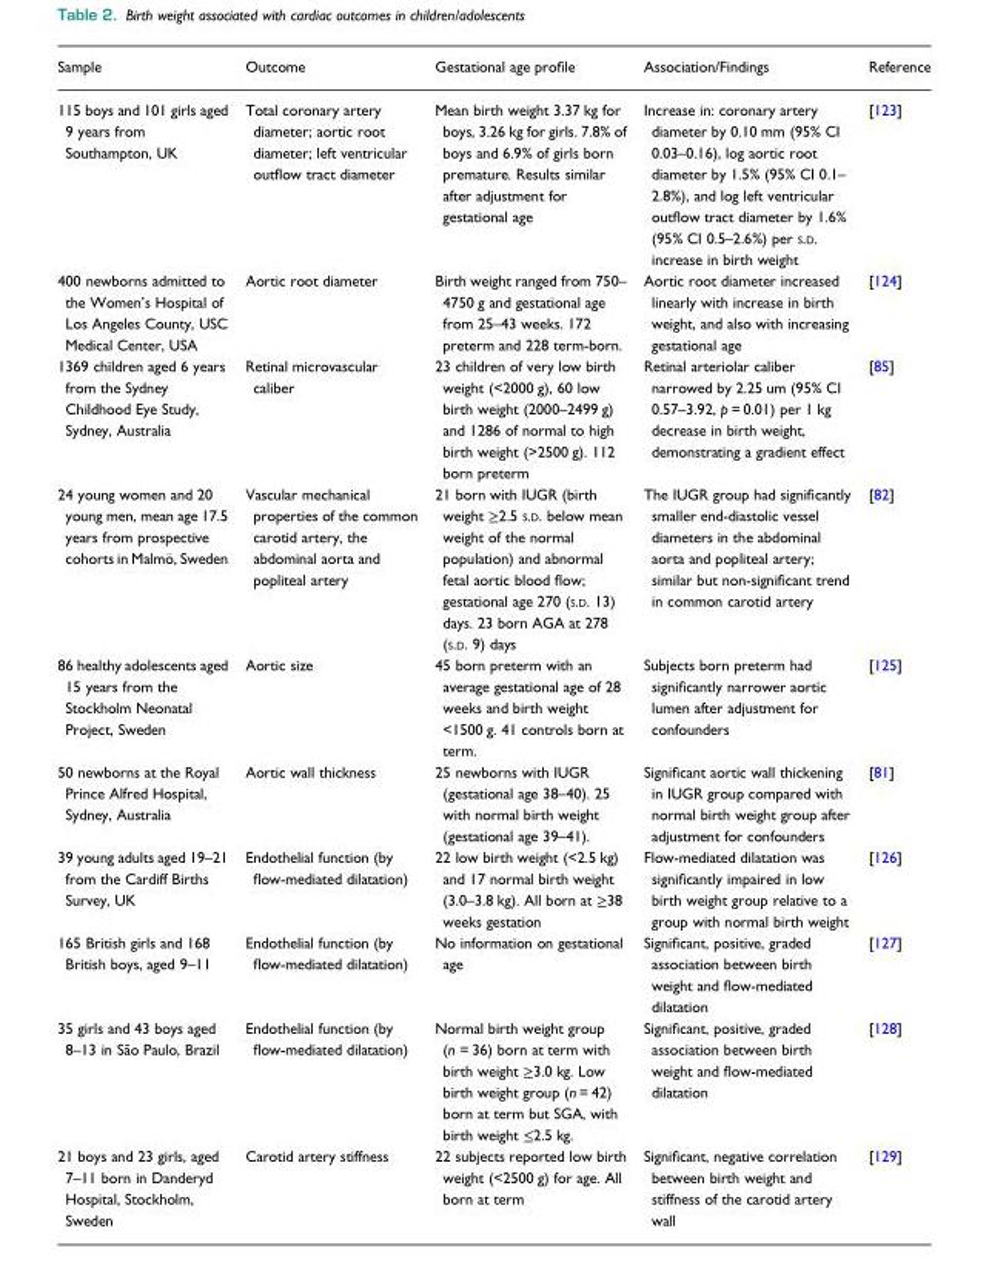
<table><thead><tr><td>Sample</td><td>Outcome</td><td>Gestational age profile</td><td>Association/Findings</td><td>Reference</td></tr></thead><tbody><tr><td>115 boys and 101 girls aged 9 years from Southampton, UK</td><td>Total coronary artery diameter; aortic root diameter; left ventricular outflow tract diameter</td><td>Mean birth weight 3.37 kg for boys, 3.26 kg for girls. 7.8% of boys and 6.9% of girls born premature. Results similar after adjustment for gestational age</td><td>Increase in: coronary artery diameter by 0.10 mm (95% CI 0.03–0.16), log aortic root diameter by 1.5% (95% CI 0.1– 2.8%), and log left ventricular outflow tract diameter by 1.6% (95% CI 0.5–2.6%) per S.D. increase in birth weight</td><td>[123]</td></tr><tr><td>400 newborns admitted to the Women’s Hospital of Los Angeles County, USC Medical Center, USA</td><td>Aortic root diameter</td><td>Birth weight ranged from 750– 4750 g and gestational age from 25–43 weeks. 172 preterm and 228 term-born.</td><td>Aortic root diameter increased linearly with increase in birth weight, and also with increasing gestational age</td><td>[124]</td></tr><tr><td>1369 children aged 6 years from the Sydney Childhood Eye Study, Sydney, Australia</td><td>Retinal microvascular caliber</td><td>23 children of very low birth weight (&lt;2000 g), 60 low birth weight (2000–2499 g) and 1286 of normal to high birth weight (&gt;2500 g). 112 born preterm</td><td>Retinal arteriolar caliber narrowed by 2.25 um (95% CI 0.57–3.92, p = 0.01) per 1 kg decrease in birth weight, demonstrating a gradient effect</td><td>[85]</td></tr><tr><td>24 young women and 20 young men, mean age 17.5 years from prospective cohorts in Malmö, Sweden</td><td>Vascular mechanical properties of the common carotid artery, the abdominal aorta and popliteal artery</td><td>21 born with IUGR (birth weight ≥2.5 S.D. below mean weight of the normal population) and abnormal fetal aortic blood flow; gestational age 270 (S.D. 13) days. 23 born AGA at 278 (S.D. 9) days</td><td>The IUGR group had significantly smaller end-diastolic vessel diameters in the abdominal aorta and popliteal artery; similar but non-significant trend in common carotid artery</td><td>[82]</td></tr><tr><td>86 healthy adolescents aged 15 years from the Stockholm Neonatal Project, Sweden</td><td>Aortic size</td><td>45 born preterm with an average gestational age of 28 weeks and birth weight &lt;1500 g. 41 controls born at term.</td><td>Subjects born preterm had significantly narrower aortic lumen after adjustment for confounders</td><td>[125]</td></tr><tr><td>50 newborns at the Royal Prince Alfred Hospital, Sydney, Australia</td><td>Aortic wall thickness</td><td>25 newborns with IUGR (gestational age 38–40). 25 with normal birth weight (gestational age 39–41).</td><td>Significant aortic wall thickening in IUGR group compared with normal birth weight group after adjustment for confounders</td><td>[81]</td></tr><tr><td>39 young adults aged 19–21 from the Cardiff Births Survey, UK</td><td>Endothelial function (by flow-mediated dilatation)</td><td>22 low birth weight (&lt;2.5 kg) and 17 normal birth weight (3.0–3.8 kg). All born at ≥38 weeks gestation</td><td>Flow-mediated dilatation was significantly impaired in low birth weight group relative to a group with normal birth weight</td><td>[126]</td></tr><tr><td>165 British girls and 168 British boys, aged 9–11</td><td>Endothelial function (by flow-mediated dilatation)</td><td>No information on gestational age</td><td>Significant, positive, graded association between birth weight and flow-mediated dilatation</td><td>[127]</td></tr><tr><td>35 girls and 43 boys aged 8–13 in São Paulo, Brazil</td><td>Endothelial function (by flow-mediated dilatation)</td><td>Normal birth weight group (n = 36) born at term with birth weight ≥3.0 kg. Low birth weight group (n = 42) born at term but SGA, with birth weight ≤2.5 kg.</td><td>Significant, positive, graded association between birth weight and flow-mediated dilatation</td><td>[128]</td></tr><tr><td>21 boys and 23 girls, aged 7–11 born in Danderyd Hospital, Stockholm, Sweden</td><td>Carotid artery stiffness</td><td>22 subjects reported low birth weight (&lt;2500 g) for age. All born at term</td><td>Significant, negative correlation between birth weight and stiffness of the carotid artery wall</td><td>[129]</td></tr></tbody></table>